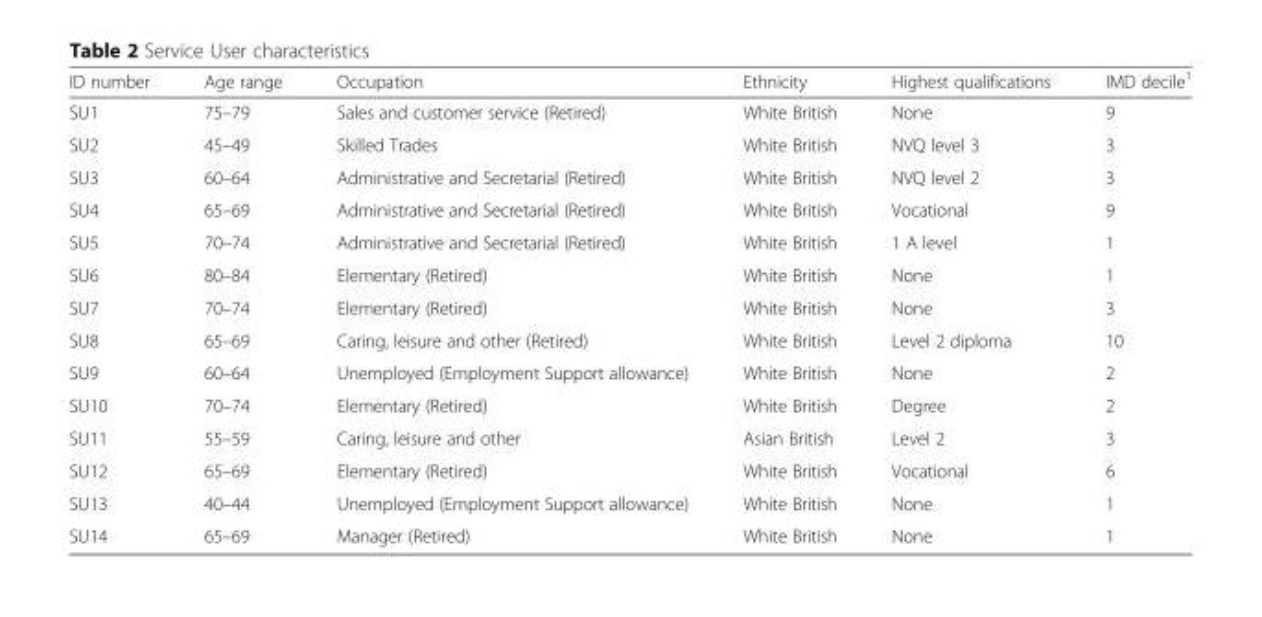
<table><thead><tr><td>ID number</td><td>Age range</td><td>Occupation</td><td>Ethnicity</td><td>Highest qualifications</td><td>IMD decile<sup>1</sup></td></tr></thead><tbody><tr><td>SU1</td><td>75–79</td><td>Sales and customer service (Retired)</td><td>White British</td><td>None</td><td>9</td></tr><tr><td>SU2</td><td>45–49</td><td>Skilled Trades</td><td>White British</td><td>NVQ level 3</td><td>3</td></tr><tr><td>SU3</td><td>60–64</td><td>Administrative and Secretarial (Retired)</td><td>White British</td><td>NVQ level 2</td><td>3</td></tr><tr><td>SU4</td><td>65–69</td><td>Administrative and Secretarial (Retired)</td><td>White British</td><td>Vocational</td><td>9</td></tr><tr><td>SU5</td><td>70–74</td><td>Administrative and Secretarial (Retired)</td><td>White British</td><td>1 A level</td><td>1</td></tr><tr><td>SU6</td><td>80–84</td><td>Elementary (Retired)</td><td>White British</td><td>None</td><td>1</td></tr><tr><td>SU7</td><td>70–74</td><td>Elementary (Retired)</td><td>White British</td><td>None</td><td>3</td></tr><tr><td>SU8</td><td>65–69</td><td>Caring, leisure and other (Retired)</td><td>White British</td><td>Level 2 diploma</td><td>10</td></tr><tr><td>SU9</td><td>60–64</td><td>Unemployed (Employment Support allowance)</td><td>White British</td><td>None</td><td>2</td></tr><tr><td>SU10</td><td>70–74</td><td>Elementary (Retired)</td><td>White British</td><td>Degree</td><td>2</td></tr><tr><td>SU11</td><td>55–59</td><td>Caring, leisure and other</td><td>Asian British</td><td>Level 2</td><td>3</td></tr><tr><td>SU12</td><td>65–69</td><td>Elementary (Retired)</td><td>White British</td><td>Vocational</td><td>6</td></tr><tr><td>SU13</td><td>40–44</td><td>Unemployed (Employment Support allowance)</td><td>White British</td><td>None</td><td>1</td></tr><tr><td>SU14</td><td>65–69</td><td>Manager (Retired)</td><td>White British</td><td>None</td><td>1</td></tr></tbody></table>